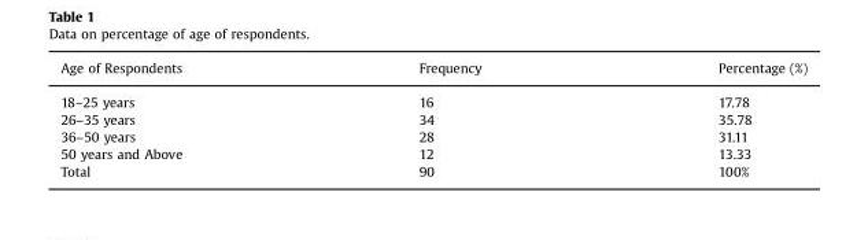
<table><thead><tr><td>Age of Respondents</td><td>Frequency</td><td>Percentage (%)</td></tr></thead><tbody><tr><td>18–25 years</td><td>16</td><td>17.78</td></tr><tr><td>26–35 years</td><td>34</td><td>35.78</td></tr><tr><td>36–50 years</td><td>28</td><td>31.11</td></tr><tr><td>50 years and Above</td><td>12</td><td>13.33</td></tr><tr><td>Total</td><td>90</td><td>100%</td></tr></tbody></table>